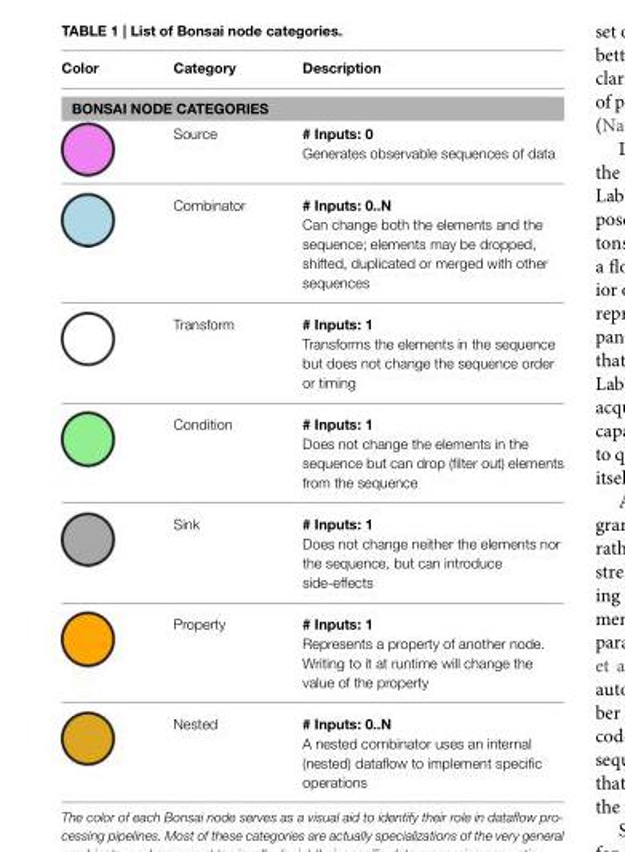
<table><thead><tr><td>Color</td><td>Category</td><td>Description</td></tr></thead><tbody><tr><td colspan="3">BONSAI NODE CATEGORIES</td></tr><tr><td></td><td>Source</td><td># Inputs: 0 Generates observable sequences of data</td></tr><tr><td></td><td>Combinator</td><td># Inputs: 0..N Can change both the elements and the sequence; elements may be dropped, shifted, duplicated or merged with other sequences</td></tr><tr><td></td><td>Transform</td><td># Inputs: 1 Transforms the elements in the sequence but does not change the sequence order or timing</td></tr><tr><td></td><td>Condition</td><td># Inputs: 1 Does not change the elements in the sequence but can drop (filter out) elements from the sequence</td></tr><tr><td></td><td>Sink</td><td># Inputs: 1 Does not change neither the elements nor the sequence, but can introduce side-effects</td></tr><tr><td></td><td>Property</td><td># Inputs: 1 Represents a property of another node. Writing to it at runtime will change the value of the property</td></tr><tr><td></td><td>Nested</td><td># Inputs: 0..N A nested combinator uses an internal (nested) dataflow to implement specific operations</td></tr></tbody></table>